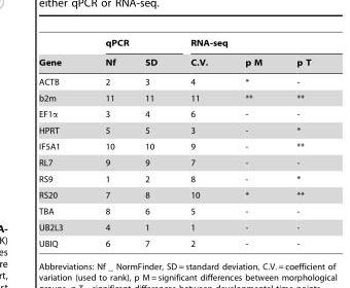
<table><thead><tr><td rowspan="2">Gene</td><td colspan="2">qPCR</td><td colspan="3">RNA-seq</td></tr><tr><td>Nf</td><td>SD</td><td>C.V.</td><td>p M</td><td>p T</td></tr></thead><tbody><tr><td>ACTB</td><td>2</td><td>3</td><td>4</td><td>*</td><td>-</td></tr><tr><td>b2m</td><td>11</td><td>11</td><td>11</td><td>**</td><td>**</td></tr><tr><td>EF1α</td><td>3</td><td>4</td><td>6</td><td>-</td><td>-</td></tr><tr><td>HPRT</td><td>5</td><td>5</td><td>3</td><td>-</td><td>*</td></tr><tr><td>IF5A1</td><td>10</td><td>10</td><td>9</td><td>-</td><td>**</td></tr><tr><td>RL7</td><td>9</td><td>9</td><td>7</td><td>-</td><td>-</td></tr><tr><td>RS9</td><td>1</td><td>2</td><td>8</td><td>-</td><td>*</td></tr><tr><td>RS20</td><td>7</td><td>8</td><td>10</td><td>*</td><td>**</td></tr><tr><td>TBA</td><td>8</td><td>6</td><td>5</td><td>-</td><td>-</td></tr><tr><td>UB2L3</td><td>4</td><td>1</td><td>1</td><td>-</td><td>-</td></tr><tr><td>UBIQ</td><td>6</td><td>7</td><td>2</td><td>-</td><td>-</td></tr></tbody></table>